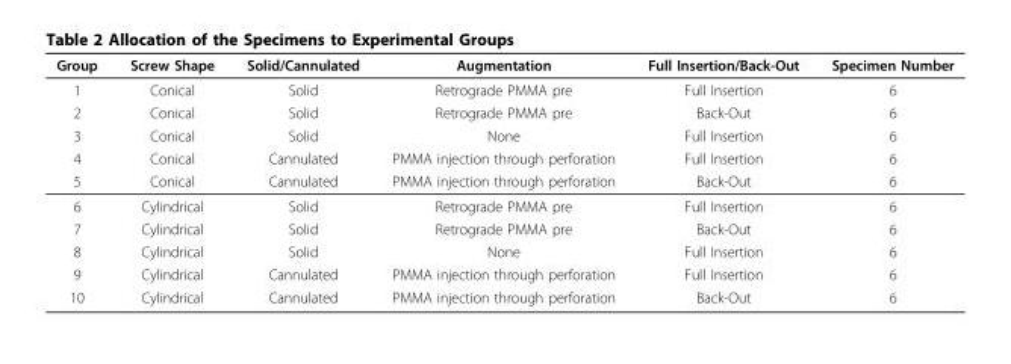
<table><thead><tr><td>Group</td><td>Screw Shape</td><td>Solid/Cannulated</td><td>Augmentation</td><td>Full Insertion/Back-Out</td><td>Specimen Number</td></tr></thead><tbody><tr><td>1</td><td>Conical</td><td>Solid</td><td>Retrograde PMMA pre</td><td>Full Insertion</td><td>6</td></tr><tr><td>2</td><td>Conical</td><td>Solid</td><td>Retrograde PMMA pre</td><td>Back-Out</td><td>6</td></tr><tr><td>3</td><td>Conical</td><td>Solid</td><td>None</td><td>Full Insertion</td><td>6</td></tr><tr><td>4</td><td>Conical</td><td>Cannulated</td><td>PMMA injection through perforation</td><td>Full Insertion</td><td>6</td></tr><tr><td>5</td><td>Conical</td><td>Cannulated</td><td>PMMA injection through perforation</td><td>Back-Out</td><td>6</td></tr><tr><td>6</td><td>Cylindrical</td><td>Solid</td><td>Retrograde PMMA pre</td><td>Full Insertion</td><td>6</td></tr><tr><td>7</td><td>Cylindrical</td><td>Solid</td><td>Retrograde PMMA pre</td><td>Back-Out</td><td>6</td></tr><tr><td>8</td><td>Cylindrical</td><td>Solid</td><td>None</td><td>Full Insertion</td><td>6</td></tr><tr><td>9</td><td>Cylindrical</td><td>Cannulated</td><td>PMMA injection through perforation</td><td>Full Insertion</td><td>6</td></tr><tr><td>10</td><td>Cylindrical</td><td>Cannulated</td><td>PMMA injection through perforation</td><td>Back-Out</td><td>6</td></tr></tbody></table>